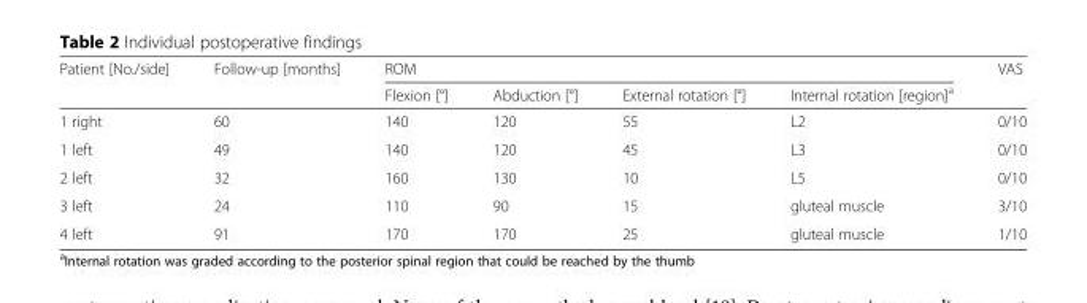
<table><thead><tr><td rowspan="2">Patient [No./side]</td><td rowspan="2">Follow-up [months]</td><td colspan="4">ROM</td><td rowspan="2">VAS</td></tr><tr><td>Flexion [°]</td><td>Abduction [°]</td><td>External rotation [°]</td><td>Internal rotation [region]<sup>a</sup></td></tr></thead><tbody><tr><td>1 right</td><td>60</td><td>140</td><td>120</td><td>55</td><td>L2</td><td>0/10</td></tr><tr><td>1 left</td><td>49</td><td>140</td><td>120</td><td>45</td><td>L3</td><td>0/10</td></tr><tr><td>2 left</td><td>32</td><td>160</td><td>130</td><td>10</td><td>L5</td><td>0/10</td></tr><tr><td>3 left</td><td>24</td><td>110</td><td>90</td><td>15</td><td>gluteal muscle</td><td>3/10</td></tr><tr><td>4 left</td><td>91</td><td>170</td><td>170</td><td>25</td><td>gluteal muscle</td><td>1/10</td></tr></tbody></table>